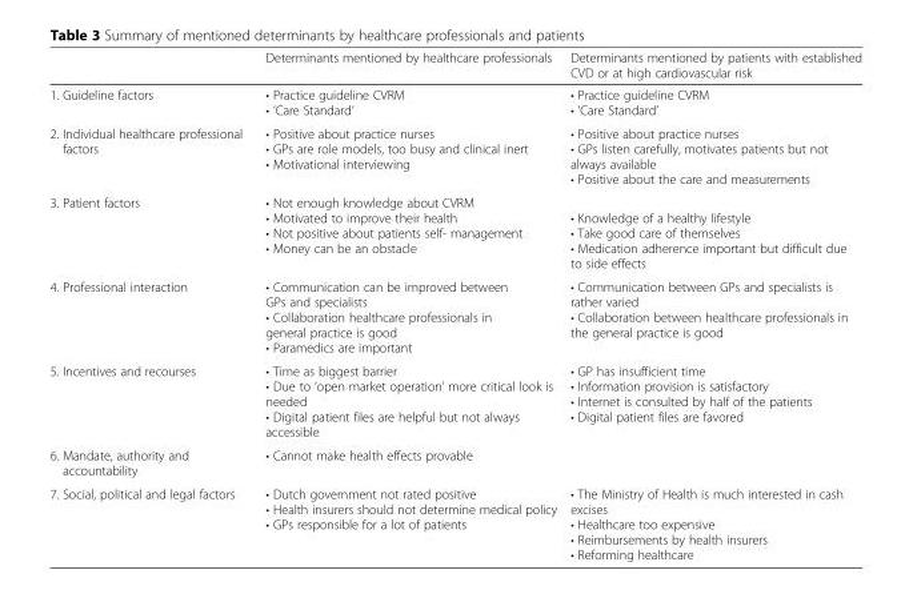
<table><thead><tr><td></td><td>Determinants mentioned by healthcare professionals</td><td>Determinants mentioned by patients with established CVD or at high cardiovascular risk</td></tr></thead><tbody><tr><td>1. Guideline factors</td><td>• Practice guideline CVRM • ‘Care Standard’</td><td>• Practice guideline CVRM • ‘Care Standard’</td></tr><tr><td>2. Individual healthcare professional factors</td><td>• Positive about practice nurses • GPs are role models, too busy and clinical inert • Motivational interviewing</td><td>• Positive about practice nurses • GPs listen carefully, motivates patients but not always available • Positive about the care and measurements</td></tr><tr><td>3. Patient factors</td><td>• Not enough knowledge about CVRM • Motivated to improve their health • Not positive about patients self- management • Money can be an obstacle</td><td>• Knowledge of a healthy lifestyle • Take good care of themselves • Medication adherence important but difficult due to side effects</td></tr><tr><td>4. Professional interaction</td><td>• Communication can be improved between GPs and specialists • Collaboration healthcare professionals in general practice is good • Paramedics are important</td><td>• Communication between GPs and specialists is rather varied • Collaboration between healthcare professionals in the general practice is good</td></tr><tr><td>5. Incentives and recourses</td><td>• Time as biggest barrier • Due to ‘open market operation’ more critical look is needed • Digital patient files are helpful but not always accessible</td><td>• GP has insufficient time • Information provision is satisfactory • Internet is consulted by half of the patients • Digital patient files are favored</td></tr><tr><td>6. Mandate, authority and accountability</td><td>• Cannot make health effects provable</td><td></td></tr><tr><td>7. Social, political and legal factors</td><td>• Dutch government not rated positive • Health insurers should not determine medical policy • GPs responsible for a lot of patients</td><td>• The Ministry of Health is much interested in cash excises • Healthcare too expensive • Reimbursements by health insurers • Reforming healthcare</td></tr></tbody></table>